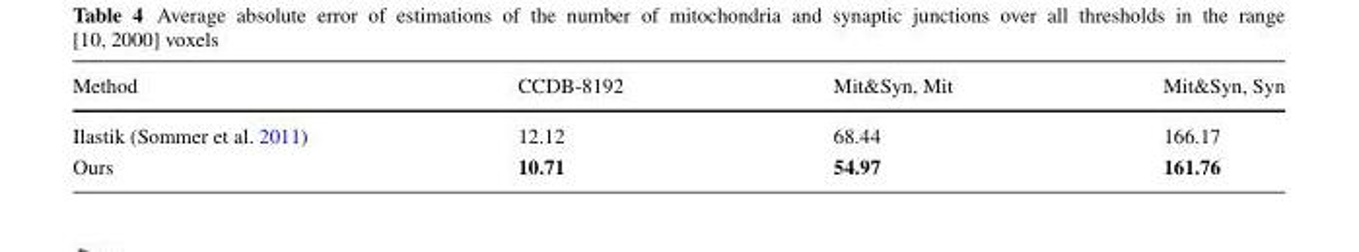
<table><thead><tr><td>Method</td><td>CCDB-8192</td><td>Mit&amp;Syn, Mit</td><td>Mit&amp;Syn, Syn</td></tr></thead><tbody><tr><td>Ilastik (Sommer et al. 2011)</td><td>12.12</td><td>68.44</td><td>166.17</td></tr><tr><td>Ours</td><td>10.71</td><td>54.97</td><td>161.76</td></tr></tbody></table>